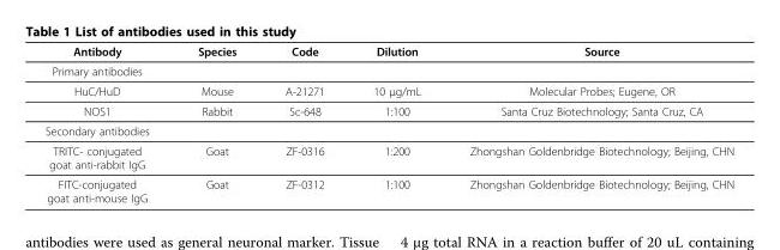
<table><thead><tr><td>Antibody</td><td>Species</td><td>Code</td><td>Dilution</td><td>Source</td></tr></thead><tbody><tr><td colspan="5">Primary antibodies</td></tr><tr><td>HuC/HuD</td><td>Mouse</td><td>A-21271</td><td>10 μg/mL</td><td>Molecular Probes; Eugene, OR</td></tr><tr><td>NOS1</td><td>Rabbit</td><td>Sc-648</td><td>1:100</td><td>Santa Cruz Biotechnology; Santa Cruz, CA</td></tr><tr><td colspan="5">Secondary antibodies</td></tr><tr><td>TRITC- conjugated goat anti-rabbit IgG</td><td>Goat</td><td>ZF-0316</td><td>1:200</td><td>Zhongshan Goldenbridge Biotechnology; Beijing, CHN</td></tr><tr><td>FITC-conjugated goat anti-mouse IgG</td><td>Goat</td><td>ZF-0312</td><td>1:100</td><td>Zhongshan Goldenbridge Biotechnology; Beijing, CHN</td></tr></tbody></table>